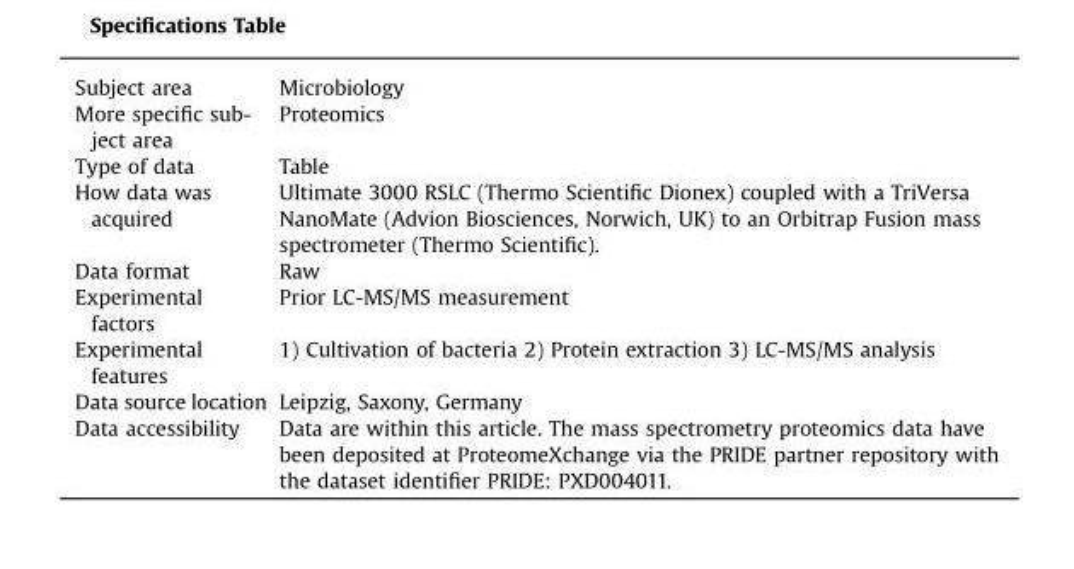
<table><tbody><tr><td>Subject area</td><td>Microbiology</td></tr><tr><td>More specific sub- ject area</td><td>Proteomics</td></tr><tr><td>Type of data</td><td>Table</td></tr><tr><td>How data was acquired</td><td>Ultimate 3000 RSLC (Thermo Scientific Dionex) coupled with a TriVersa NanoMate (Advion Biosciences, Norwich, UK) to an Orbitrap Fusion mass spectrometer (Thermo Scientific).</td></tr><tr><td>Data format</td><td>Raw</td></tr><tr><td>Experimental factors</td><td>Prior LC-MS/MS measurement</td></tr><tr><td>Experimental features</td><td>1) Cultivation of bacteria 2) Protein extraction 3) LC-MS/MS analysis</td></tr><tr><td>Data source location</td><td>Leipzig, Saxony, Germany</td></tr><tr><td>Data accessibility</td><td>Data are within this article. The mass spectrometry proteomics data have been deposited at ProteomeXchange via the PRIDE partner repository with the dataset identifier PRIDE: PXD004011.</td></tr></tbody></table>